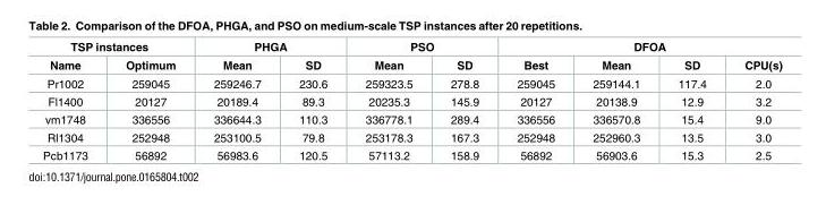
<table><thead><tr><td colspan="2">TSP instances</td><td colspan="2">PHGA</td><td colspan="2">PSO</td><td colspan="4">DFOA</td></tr><tr><td>Name</td><td>Optimum</td><td>Mean</td><td>SD</td><td>Mean</td><td>SD</td><td>Best</td><td>Mean</td><td>SD</td><td>CPU(s)</td></tr></thead><tbody><tr><td>Pr1002</td><td>259045</td><td>259246.7</td><td>230.6</td><td>259323.5</td><td>278.8</td><td>259045</td><td>259144.1</td><td>117.4</td><td>2.0</td></tr><tr><td>Fl1400</td><td>20127</td><td>20189.4</td><td>89.3</td><td>20235.3</td><td>145.9</td><td>20127</td><td>20138.9</td><td>12.9</td><td>3.2</td></tr><tr><td>vm1748</td><td>336556</td><td>336644.3</td><td>110.3</td><td>336778.1</td><td>289.4</td><td>336556</td><td>336570.8</td><td>15.4</td><td>9.0</td></tr><tr><td>Rl1304</td><td>252948</td><td>253100.5</td><td>79.8</td><td>253178.3</td><td>167.3</td><td>252948</td><td>252960.3</td><td>13.5</td><td>3.0</td></tr><tr><td>Pcb1173</td><td>56892</td><td>56983.6</td><td>120.5</td><td>57113.2</td><td>158.9</td><td>56892</td><td>56903.6</td><td>15.3</td><td>2.5</td></tr></tbody></table>